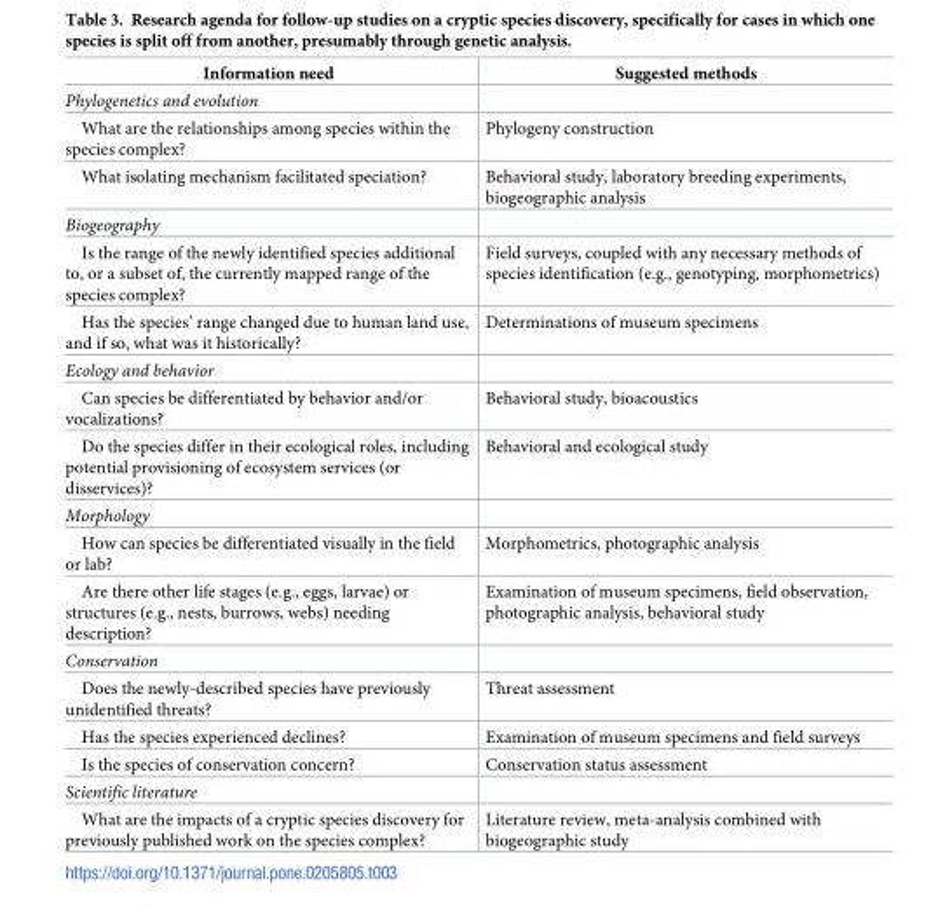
<table><thead><tr><td>Information need</td><td>Suggested methods</td></tr></thead><tbody><tr><td colspan="2">Phylogenetics and evolution</td></tr><tr><td>What are the relationships among species within the species complex?</td><td>Phylogeny construction</td></tr><tr><td>What isolating mechanism facilitated speciation?</td><td>Behavioral study, laboratory breeding experiments, biogeographic analysis</td></tr><tr><td colspan="2">Biogeography</td></tr><tr><td>Is the range of the newly identified species additional to, or a subset of, the currently mapped range of the species complex?</td><td>Field surveys, coupled with any necessary methods of species identification (e.g., genotyping, morphometrics)</td></tr><tr><td>Has the species’ range changed due to human land use, and if so, what was it historically?</td><td>Determinations of museum specimens</td></tr><tr><td colspan="2">Ecology and behavior</td></tr><tr><td>Can species be differentiated by behavior and/or vocalizations?</td><td>Behavioral study, bioacoustics</td></tr><tr><td>Do the species differ in their ecological roles, including potential provisioning of ecosystem services (or disservices)?</td><td>Behavioral and ecological study</td></tr><tr><td colspan="2">Morphology</td></tr><tr><td>How can species be differentiated visually in the field or lab?</td><td>Morphometrics, photographic analysis</td></tr><tr><td>Are there other life stages (e.g., eggs, larvae) or structures (e.g., nests, burrows, webs) needing description?</td><td>Examination of museum specimens, field observation, photographic analysis, behavioral study</td></tr><tr><td colspan="2">Conservation</td></tr><tr><td>Does the newly-described species have previously unidentified threats?</td><td>Threat assessment</td></tr><tr><td>Has the species experienced declines?</td><td>Examination of museum specimens and field surveys</td></tr><tr><td>Is the species of conservation concern?</td><td>Conservation status assessment</td></tr><tr><td colspan="2">Scientific literature</td></tr><tr><td>What are the impacts of a cryptic species discovery for previously published work on the species complex?</td><td>Literature review, meta-analysis combined with biogeographic study</td></tr></tbody></table>